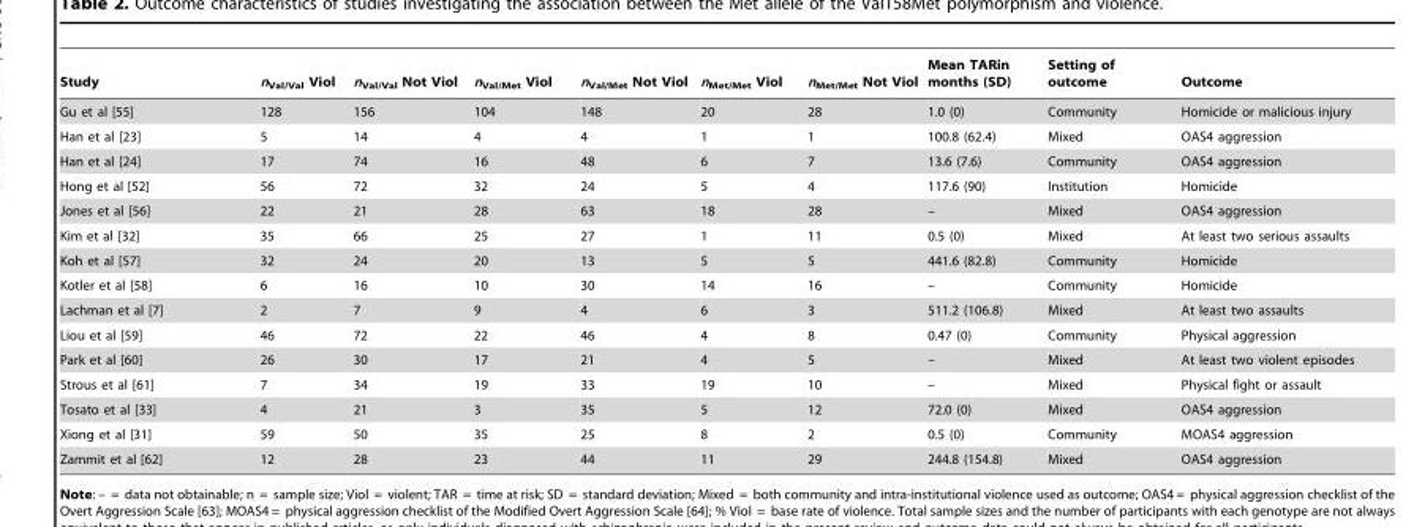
<table><thead><tr><td>Study</td><td>n<sub>Val/Val</sub> Viol</td><td>n<sub>Val/Val</sub> Not Viol</td><td>n<sub>Val/Met</sub> Viol</td><td>n<sub>Val/Met</sub> Not Viol</td><td>n<sub>Met/Met</sub> Viol</td><td>n<sub>Met/Met</sub> Not Viol</td><td>Mean TARin months (SD)</td><td>Setting of outcome</td><td>Outcome</td></tr></thead><tbody><tr><td>Gu et al [55]</td><td>128</td><td>156</td><td>104</td><td>148</td><td>20</td><td>28</td><td>1.0 (0)</td><td>Community</td><td>Homicide or malicious injury</td></tr><tr><td>Han et al [23]</td><td>5</td><td>14</td><td>4</td><td>4</td><td>1</td><td>1</td><td>100.8 (62.4)</td><td>Mixed</td><td>OAS4 aggression</td></tr><tr><td>Han et al [24]</td><td>17</td><td>74</td><td>16</td><td>48</td><td>6</td><td>7</td><td>13.6 (7.6)</td><td>Community</td><td>OAS4 aggression</td></tr><tr><td>Hong et al [52]</td><td>56</td><td>72</td><td>32</td><td>24</td><td>5</td><td>4</td><td>117.6 (90)</td><td>Institution</td><td>Homicide</td></tr><tr><td>Jones et al [56]</td><td>22</td><td>21</td><td>28</td><td>63</td><td>18</td><td>28</td><td>–</td><td>Mixed</td><td>OAS4 aggression</td></tr><tr><td>Kim et al [32]</td><td>35</td><td>66</td><td>25</td><td>27</td><td>1</td><td>11</td><td>0.5 (0)</td><td>Mixed</td><td>At least two serious assaults</td></tr><tr><td>Koh et al [57]</td><td>32</td><td>24</td><td>20</td><td>13</td><td>5</td><td>5</td><td>441.6 (82.8)</td><td>Community</td><td>Homicide</td></tr><tr><td>Kotler et al [58]</td><td>6</td><td>16</td><td>10</td><td>30</td><td>14</td><td>16</td><td>–</td><td>Community</td><td>Homicide</td></tr><tr><td>Lachman et al [7]</td><td>2</td><td>7</td><td>9</td><td>4</td><td>6</td><td>3</td><td>511.2 (106.8)</td><td>Mixed</td><td>At least two assaults</td></tr><tr><td>Liou et al [59]</td><td>46</td><td>72</td><td>22</td><td>46</td><td>4</td><td>8</td><td>0.47 (0)</td><td>Community</td><td>Physical aggression</td></tr><tr><td>Park et al [60]</td><td>26</td><td>30</td><td>17</td><td>21</td><td>4</td><td>5</td><td>–</td><td>Mixed</td><td>At least two violent episodes</td></tr><tr><td>Strous et al [61]</td><td>7</td><td>34</td><td>19</td><td>33</td><td>19</td><td>10</td><td>–</td><td>Mixed</td><td>Physical fight or assault</td></tr><tr><td>Tosato et al [33]</td><td>4</td><td>21</td><td>3</td><td>35</td><td>5</td><td>12</td><td>72.0 (0)</td><td>Mixed</td><td>OAS4 aggression</td></tr><tr><td>Xiong et al [31]</td><td>59</td><td>50</td><td>35</td><td>25</td><td>8</td><td>2</td><td>0.5 (0)</td><td>Community</td><td>MOAS4 aggression</td></tr><tr><td>Zammit et al [62]</td><td>12</td><td>28</td><td>23</td><td>44</td><td>11</td><td>29</td><td>244.8 (154.8)</td><td>Mixed</td><td>OAS4 aggression</td></tr></tbody></table>